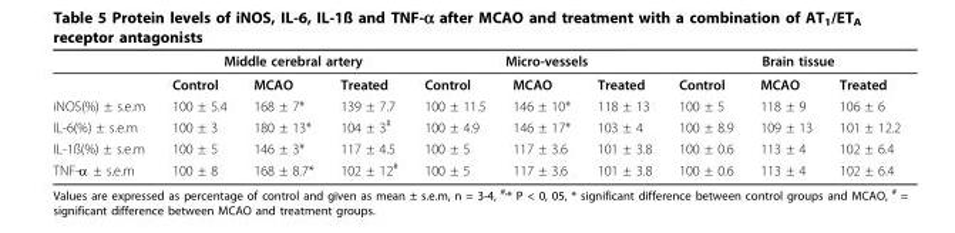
<table><thead><tr><td rowspan="2"></td><td colspan="3">Middle cerebral artery</td><td colspan="3">Micro-vessels</td><td colspan="3">Brain tissue</td></tr><tr><td>Control</td><td>MCAO</td><td>Treated</td><td>Control</td><td>MCAO</td><td>Treated</td><td>Control</td><td>MCAO</td><td>Treated</td></tr></thead><tbody><tr><td>iNOS(%) ± s.e.m</td><td>100 ± 5.4</td><td>168 ± 7*</td><td>139 ± 7.7</td><td>100 ± 11.5</td><td>146 ± 10*</td><td>118 ± 13</td><td>100 ± 5</td><td>118 ± 9</td><td>106 ± 6</td></tr><tr><td>IL-6(%) ± s.e.m</td><td>100 ± 3</td><td>180 ± 13*</td><td>104 ± 3<sup>#</sup></td><td>100 ± 4.9</td><td>146 ± 17*</td><td>103 ± 4</td><td>100 ± 8.9</td><td>109 ± 13</td><td>101 ± 12.2</td></tr><tr><td>IL-1ß(%) ± s.e.m</td><td>100 ± 5</td><td>146 ± 3*</td><td>117 ± 4.5</td><td>100 ± 5</td><td>117 ± 3.6</td><td>101 ± 3.8</td><td>100 ± 0.6</td><td>113 ± 4</td><td>102 ± 6.4</td></tr><tr><td>TNF-α ± s.e.m</td><td>100 ± 8</td><td>168 ± 8.7*</td><td>102 ± 12<sup>#</sup></td><td>100 ± 5</td><td>117 ± 3.6</td><td>101 ± 3.8</td><td>100 ± 0.6</td><td>113 ± 4</td><td>102 ± 6.4</td></tr></tbody></table>